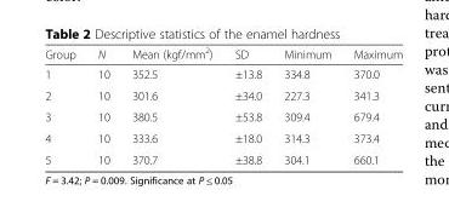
<table><thead><tr><td>Group</td><td>N</td><td>Mean (kgf/mm<sup>2</sup>)</td><td>SD</td><td>Minimum</td><td>Maximum</td></tr></thead><tbody><tr><td>1</td><td>10</td><td>352.5</td><td>±13.8</td><td>334.8</td><td>370.0</td></tr><tr><td>2</td><td>10</td><td>301.6</td><td>±34.0</td><td>227.3</td><td>341.3</td></tr><tr><td>3</td><td>10</td><td>380.5</td><td>±53.8</td><td>309.4</td><td>679.4</td></tr><tr><td>4</td><td>10</td><td>333.6</td><td>±18.0</td><td>314.3</td><td>373.4</td></tr><tr><td>5</td><td>10</td><td>370.7</td><td>±38.8</td><td>304.1</td><td>660.1</td></tr></tbody></table>